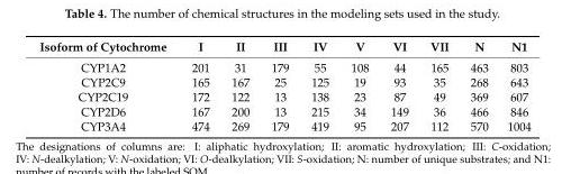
<table><thead><tr><td>Isoform of Cytochrome</td><td>I</td><td>II</td><td>III</td><td>IV</td><td>V</td><td>VI</td><td>VII</td><td>N</td><td>N1</td></tr></thead><tbody><tr><td>CYP1A2</td><td>201</td><td>31</td><td>179</td><td>55</td><td>108</td><td>44</td><td>165</td><td>463</td><td>803</td></tr><tr><td>CYP2C9</td><td>165</td><td>167</td><td>25</td><td>125</td><td>19</td><td>93</td><td>35</td><td>268</td><td>643</td></tr><tr><td>CYP2C19</td><td>172</td><td>122</td><td>13</td><td>138</td><td>23</td><td>87</td><td>49</td><td>369</td><td>607</td></tr><tr><td>CYP2D6</td><td>167</td><td>200</td><td>13</td><td>215</td><td>34</td><td>149</td><td>36</td><td>466</td><td>846</td></tr><tr><td>CYP3A4</td><td>474</td><td>269</td><td>179</td><td>419</td><td>95</td><td>207</td><td>112</td><td>570</td><td>1004</td></tr></tbody></table>